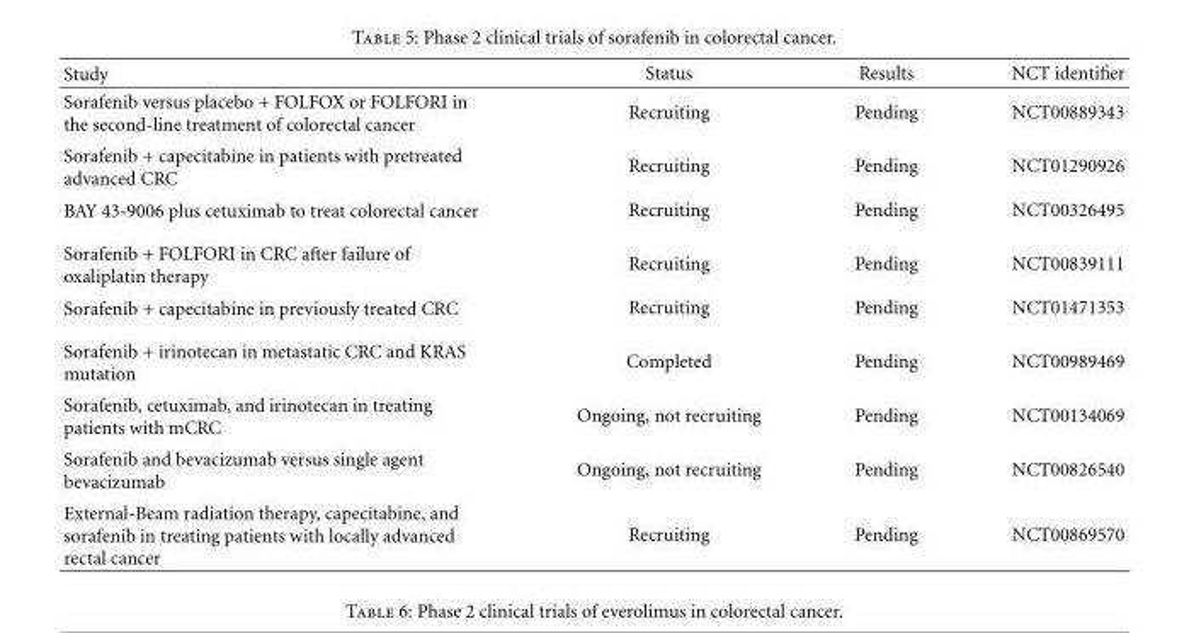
<table><thead><tr><td>Study</td><td>Status</td><td>Results</td><td>NCT identifier</td></tr></thead><tbody><tr><td>Sorafenib versus placebo + FOLFOX or FOLFORI in the second-line treatment of colorectal cancer</td><td>Recruiting</td><td>Pending</td><td>NCT00889343</td></tr><tr><td>Sorafenib + capecitabine in patients with pretreated advanced CRC</td><td>Recruiting</td><td>Pending</td><td>NCT01290926</td></tr><tr><td>BAY 43-9006 plus cetuximab to treat colorectal cancer</td><td>Recruiting</td><td>Pending</td><td>NCT00326495</td></tr><tr><td>Sorafenib + FOLFORI in CRC after failure of oxaliplatin therapy</td><td>Recruiting</td><td>Pending</td><td>NCT00839111</td></tr><tr><td>Sorafenib + capecitabine in previously treated CRC</td><td>Recruiting</td><td>Pending</td><td>NCT01471353</td></tr><tr><td>Sorafenib + irinotecan in metastatic CRC and KRAS mutation</td><td>Completed</td><td>Pending</td><td>NCT00989469</td></tr><tr><td>Sorafenib, cetuximab, and irinotecan in treating patients with mCRC</td><td>Ongoing, not recruiting</td><td>Pending</td><td>NCT00134069</td></tr><tr><td>Sorafenib and bevacizumab versus single agent bevacizumab</td><td>Ongoing, not recruiting</td><td>Pending</td><td>NCT00826540</td></tr><tr><td>External-Beam radiation therapy, capecitabine, and sorafenib in treating patients with locally advanced rectal cancer</td><td>Recruiting</td><td>Pending</td><td>NCT00869570</td></tr></tbody></table>